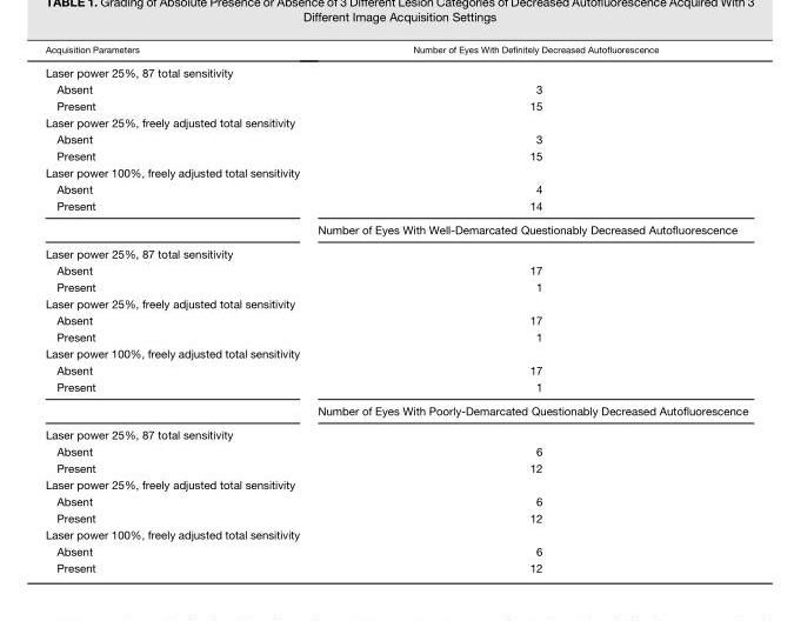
<table><thead><tr><td>Acquisition Parameters</td><td>Number of Eyes With Definitely Decreased Autofluorescence</td></tr></thead><tbody><tr><td colspan="2">Laser power 25%, 87 total sensitivity</td></tr><tr><td>Absent</td><td>3</td></tr><tr><td>Present</td><td>15</td></tr><tr><td colspan="2">Laser power 25%, freely adjusted total sensitivity</td></tr><tr><td>Absent</td><td>3</td></tr><tr><td>Present</td><td>15</td></tr><tr><td colspan="2">Laser power 100%, freely adjusted total sensitivity</td></tr><tr><td>Absent</td><td>4</td></tr><tr><td rowspan="2">Present</td><td>14</td></tr><tr><td>Number of Eyes With Well-Demarcated Questionably Decreased Autofluorescence</td></tr><tr><td colspan="2">Laser power 25%, 87 total sensitivity</td></tr><tr><td>Absent</td><td>17</td></tr><tr><td>Present</td><td>1</td></tr><tr><td colspan="2">Laser power 25%, freely adjusted total sensitivity</td></tr><tr><td>Absent</td><td>17</td></tr><tr><td>Present</td><td>1</td></tr><tr><td colspan="2">Laser power 100%, freely adjusted total sensitivity</td></tr><tr><td>Absent</td><td>17</td></tr><tr><td rowspan="2">Present</td><td>1</td></tr><tr><td>Number of Eyes With Poorly-Demarcated Questionably Decreased Autofluorescence</td></tr><tr><td colspan="2">Laser power 25%, 87 total sensitivity</td></tr><tr><td>Absent</td><td>6</td></tr><tr><td>Present</td><td>12</td></tr><tr><td colspan="2">Laser power 25%, freely adjusted total sensitivity</td></tr><tr><td>Absent</td><td>6</td></tr><tr><td>Present</td><td>12</td></tr><tr><td colspan="2">Laser power 100%, freely adjusted total sensitivity</td></tr><tr><td>Absent</td><td>6</td></tr><tr><td>Present</td><td>12</td></tr></tbody></table>